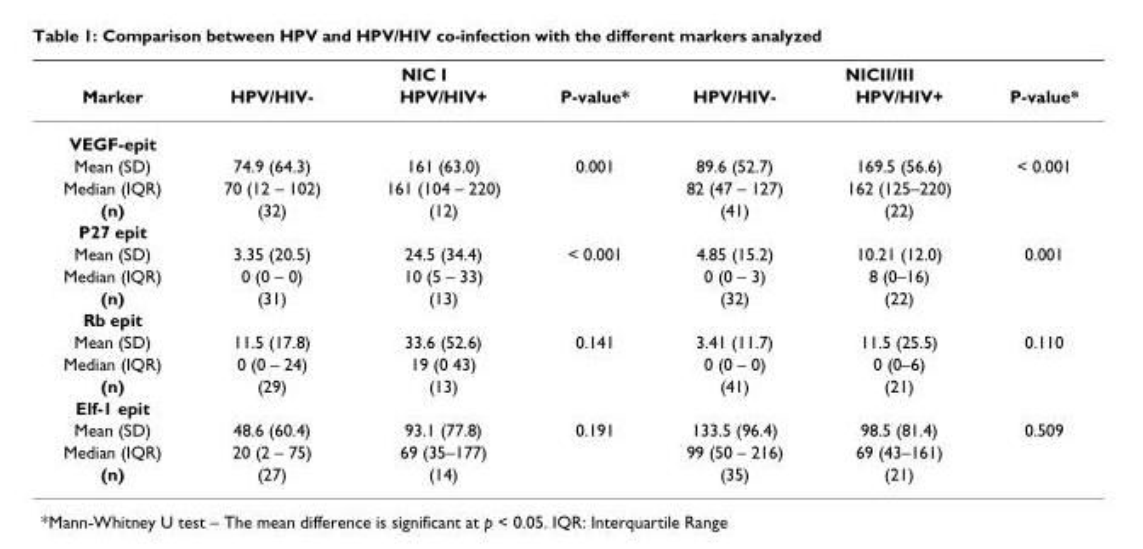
<table><thead><tr><td rowspan="2">Marker</td><td colspan="3">NIC I</td><td colspan="3">NICII/III</td></tr><tr><td>HPV/HIV-</td><td>HPV/HIV+</td><td>P-value*</td><td>HPV/HIV-</td><td>HPV/HIV+</td><td>P-value*</td></tr></thead><tbody><tr><td colspan="7">VEGF-epit</td></tr><tr><td>Mean (SD)</td><td>74.9 (64.3)</td><td>161 (63.0)</td><td>0.001</td><td>89.6 (52.7)</td><td>169.5 (56.6)</td><td>&lt; 0.001</td></tr><tr><td>Median (IQR)</td><td>70 (12 – 102)</td><td>161 (104 – 220)</td><td></td><td>82 (47 – 127)</td><td>162 (125–220)</td><td></td></tr><tr><td>(n)</td><td>(32)</td><td>(12)</td><td></td><td>(41)</td><td>(22)</td><td></td></tr><tr><td colspan="7">P27 epit</td></tr><tr><td>Mean (SD)</td><td>3.35 (20.5)</td><td>24.5 (34.4)</td><td>&lt; 0.001</td><td>4.85 (15.2)</td><td>10.21 (12.0)</td><td>0.001</td></tr><tr><td>Median (IQR)</td><td>0 (0 – 0)</td><td>10 (5 – 33)</td><td></td><td>0 (0 – 3)</td><td>8 (0–16)</td><td></td></tr><tr><td>(n)</td><td>(31)</td><td>(13)</td><td></td><td>(32)</td><td>(22)</td><td></td></tr><tr><td colspan="7">Rb epit</td></tr><tr><td>Mean (SD)</td><td>11.5 (17.8)</td><td>33.6 (52.6)</td><td>0.141</td><td>3.41 (11.7)</td><td>11.5 (25.5)</td><td>0.110</td></tr><tr><td>Median (IQR)</td><td>0 (0 – 24)</td><td>19 (0 43)</td><td></td><td>0 (0 – 0)</td><td>0 (0–6)</td><td></td></tr><tr><td>(n)</td><td>(29)</td><td>(13)</td><td></td><td>(41)</td><td>(21)</td><td></td></tr><tr><td colspan="7">Elf-1 epit</td></tr><tr><td>Mean (SD)</td><td>48.6 (60.4)</td><td>93.1 (77.8)</td><td>0.191</td><td>133.5 (96.4)</td><td>98.5 (81.4)</td><td>0.509</td></tr><tr><td>Median (IQR)</td><td>20 (2 – 75)</td><td>69 (35–177)</td><td></td><td>99 (50 – 216)</td><td>69 (43–161)</td><td></td></tr><tr><td>(n)</td><td>(27)</td><td>(14)</td><td></td><td>(35)</td><td>(21)</td><td></td></tr></tbody></table>